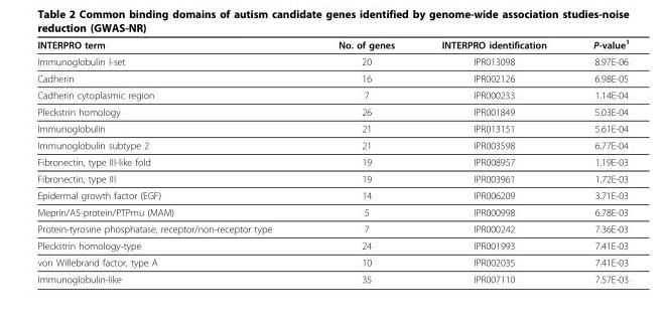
<table><thead><tr><td>INTERPRO term</td><td>No. of genes</td><td>INTERPRO identification</td><td>P-value<sup>1</sup></td></tr></thead><tbody><tr><td>Immunoglobulin I-set</td><td>20</td><td>IPR013098</td><td>8.97E-06</td></tr><tr><td>Cadherin</td><td>16</td><td>IPR002126</td><td>6.98E-05</td></tr><tr><td>Cadherin cytoplasmic region</td><td>7</td><td>IPR000233</td><td>1.14E-04</td></tr><tr><td>Pleckstrin homology</td><td>26</td><td>IPR001849</td><td>5.03E-04</td></tr><tr><td>Immunoglobulin</td><td>21</td><td>IPR013151</td><td>5.61E-04</td></tr><tr><td>Immunoglobulin subtype 2</td><td>21</td><td>IPR003598</td><td>6.77E-04</td></tr><tr><td>Fibronectin, type III-like fold</td><td>19</td><td>IPR008957</td><td>1.19E-03</td></tr><tr><td>Fibronectin, type III</td><td>19</td><td>IPR003961</td><td>1.72E-03</td></tr><tr><td>Epidermal growth factor (EGF)</td><td>14</td><td>IPR006209</td><td>3.71E-03</td></tr><tr><td>Meprin/A5-protein/PTPmu (MAM)</td><td>5</td><td>IPR000998</td><td>6.78E-03</td></tr><tr><td>Protein-tyrosine phosphatase, receptor/non-receptor type</td><td>7</td><td>IPR000242</td><td>7.36E-03</td></tr><tr><td>Pleckstrin homology-type</td><td>24</td><td>IPR001993</td><td>7.41E-03</td></tr><tr><td>von Willebrand factor, type A</td><td>10</td><td>IPR002035</td><td>7.41E-03</td></tr><tr><td>Immunoglobulin-like</td><td>35</td><td>IPR007110</td><td>7.57E-03</td></tr></tbody></table>